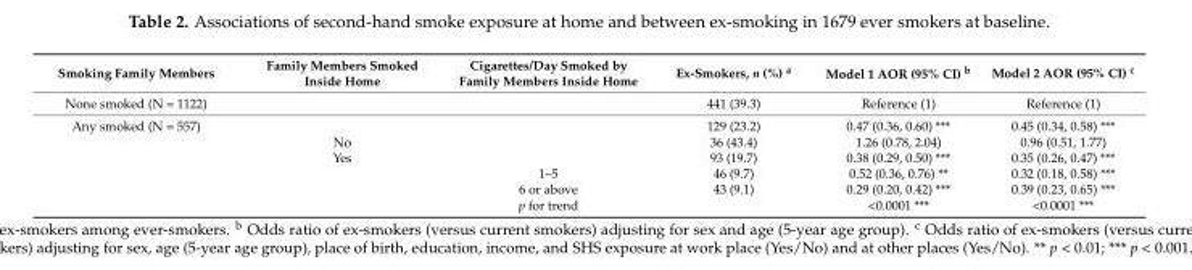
<table><thead><tr><td>Smoking Family Members</td><td>Family Members Smoked Inside Home</td><td>Cigarettes/Day Smoked by Family Members Inside Home</td><td>Ex-Smokers, n (%) <sup>a</sup></td><td>Model 1 AOR (95% CI) <sup>b</sup></td><td>Model 2 AOR (95% CI) <sup>c</sup></td></tr></thead><tbody><tr><td>None smoked (N = 1122)</td><td></td><td></td><td>441 (39.3)</td><td>Reference (1)</td><td>Reference (1)</td></tr><tr><td rowspan="6">Any smoked (N = 557)</td><td></td><td></td><td>129 (23.2)</td><td>0.47 (0.36, 0.60) ***</td><td>0.45 (0.34, 0.58) ***</td></tr><tr><td>No</td><td></td><td>36 (43.4)</td><td>1.26 (0.78, 2.04)</td><td>0.96 (0.51, 1.77)</td></tr><tr><td>Yes</td><td></td><td>93 (19.7)</td><td>0.38 (0.29, 0.50) ***</td><td>0.35 (0.26, 0.47) ***</td></tr><tr><td></td><td>1–5</td><td>46 (9.7)</td><td>0.52 (0.36, 0.76) **</td><td>0.32 (0.18, 0.58) ***</td></tr><tr><td></td><td>6 or above</td><td>43 (9.1)</td><td>0.29 (0.20, 0.42) ***</td><td>0.39 (0.23, 0.65) ***</td></tr><tr><td></td><td>p for trend</td><td></td><td>&lt;0.0001 ***</td><td>&lt;0.0001 ***</td></tr></tbody></table>